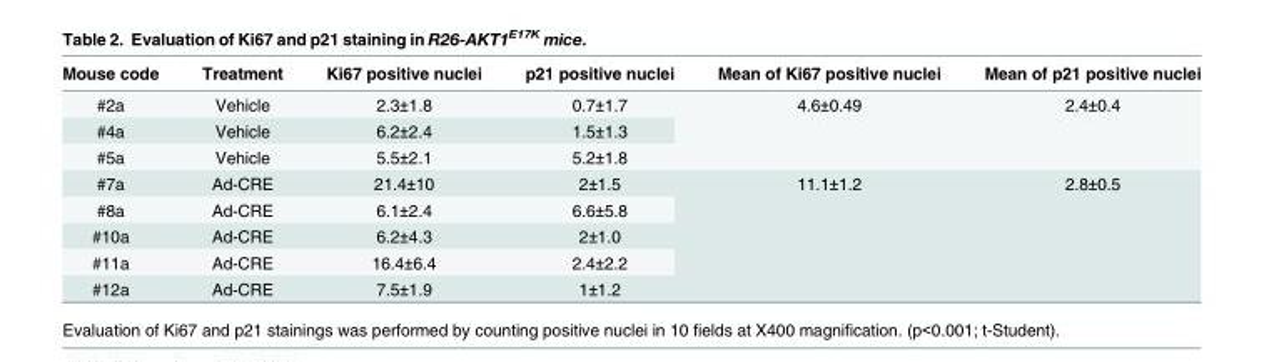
<table><thead><tr><td>Mouse code</td><td>Treatment</td><td>Ki67 positive nuclei</td><td>p21 positive nuclei</td><td>Mean of Ki67 positive nuclei</td><td>Mean of p21 positive nuclei</td></tr></thead><tbody><tr><td>#2a</td><td>Vehicle</td><td>2.3±1.8</td><td>0.7±1.7</td><td rowspan="3">4.6±0.49</td><td rowspan="3">2.4±0.4</td></tr><tr><td>#4a</td><td>Vehicle</td><td>6.2±2.4</td><td>1.5±1.3</td></tr><tr><td>#5a</td><td>Vehicle</td><td>5.5±2.1</td><td>5.2±1.8</td></tr><tr><td>#7a</td><td>Ad-CRE</td><td>21.4±10</td><td>2±1.5</td><td rowspan="5">11.1±1.2</td><td rowspan="5">2.8±0.5</td></tr><tr><td>#8a</td><td>Ad-CRE</td><td>6.1±2.4</td><td>6.6±5.8</td></tr><tr><td>#10a</td><td>Ad-CRE</td><td>6.2±4.3</td><td>2±1.0</td></tr><tr><td>#11a</td><td>Ad-CRE</td><td>16.4±6.4</td><td>2.4±2.2</td></tr><tr><td>#12a</td><td>Ad-CRE</td><td>7.5±1.9</td><td>1±1.2</td></tr></tbody></table>